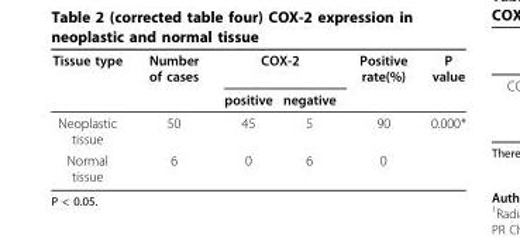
<table><thead><tr><td rowspan="2">Tissue type</td><td rowspan="2">Number of cases</td><td colspan="2">COX-2</td><td rowspan="2">Positive rate(%)</td><td rowspan="2">P value</td></tr><tr><td>positive</td><td>negative</td></tr></thead><tbody><tr><td>Neoplastic tissue</td><td>50</td><td>45</td><td>5</td><td>90</td><td>0.000*</td></tr><tr><td>Normal tissue</td><td>6</td><td>0</td><td>6</td><td>0</td><td></td></tr></tbody></table>